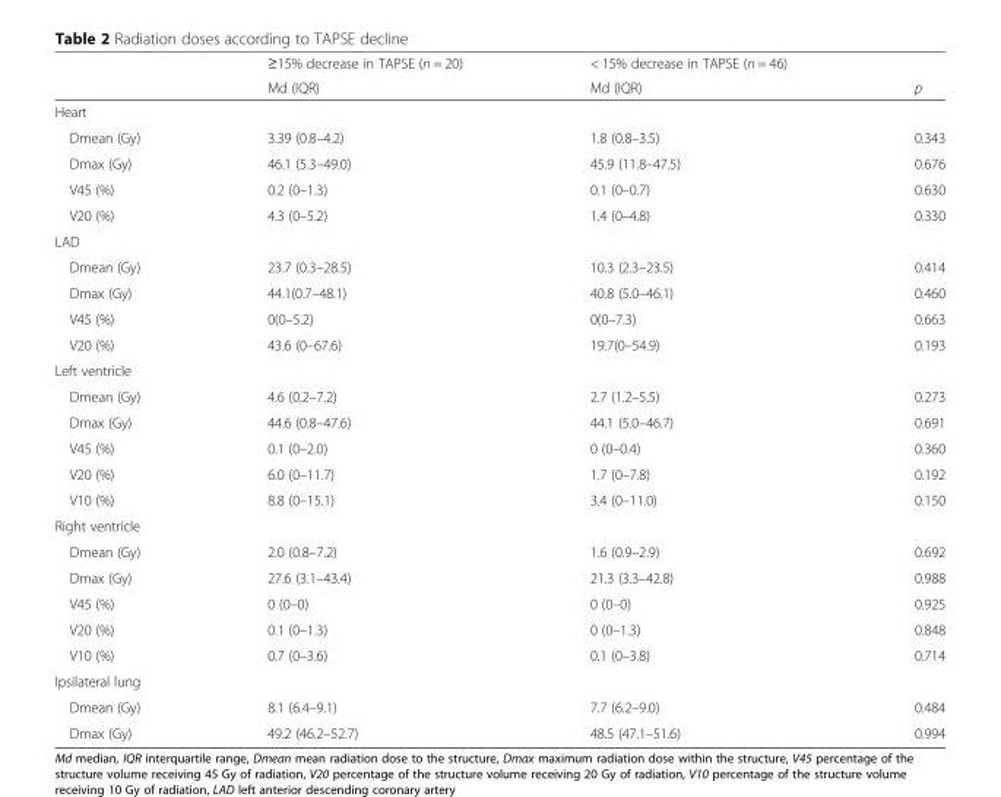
<table><thead><tr><td rowspan="2"></td><td rowspan="2">≥15% decrease in TAPSE (n = 20) Md (IQR)</td><td rowspan="2">&lt; 15% decrease in TAPSE (n = 46) Md (IQR)</td><td rowspan="2">p</td></tr><tr></tr></thead><tbody><tr><td colspan="4">Heart</td></tr><tr><td>Dmean (Gy)</td><td>3.39 (0.8–4.2)</td><td>1.8 (0.8–3.5)</td><td>0.343</td></tr><tr><td>Dmax (Gy)</td><td>46.1 (5.3–49.0)</td><td>45.9 (11.8–47.5)</td><td>0.676</td></tr><tr><td>V45 (%)</td><td>0.2 (0–1.3)</td><td>0.1 (0–0.7)</td><td>0.630</td></tr><tr><td>V20 (%)</td><td>4.3 (0–5.2)</td><td>1.4 (0–4.8)</td><td>0.330</td></tr><tr><td colspan="4">LAD</td></tr><tr><td>Dmean (Gy)</td><td>23.7 (0.3–28.5)</td><td>10.3 (2.3–23.5)</td><td>0.414</td></tr><tr><td>Dmax (Gy)</td><td>44.1(0.7–48.1)</td><td>40.8 (5.0–46.1)</td><td>0.460</td></tr><tr><td>V45 (%)</td><td>0(0–5.2)</td><td>0(0–7.3)</td><td>0.663</td></tr><tr><td>V20 (%)</td><td>43.6 (0–67.6)</td><td>19.7(0–54.9)</td><td>0.193</td></tr><tr><td colspan="4">Left ventricle</td></tr><tr><td>Dmean (Gy)</td><td>4.6 (0.2–7.2)</td><td>2.7 (1.2–5.5)</td><td>0.273</td></tr><tr><td>Dmax (Gy)</td><td>44.6 (0.8–47.6)</td><td>44.1 (5.0–46.7)</td><td>0.691</td></tr><tr><td>V45 (%)</td><td>0.1 (0–2.0)</td><td>0 (0–0.4)</td><td>0.360</td></tr><tr><td>V20 (%)</td><td>6.0 (0–11.7)</td><td>1.7 (0–7.8)</td><td>0.192</td></tr><tr><td>V10 (%)</td><td>8.8 (0–15.1)</td><td>3.4 (0–11.0)</td><td>0.150</td></tr><tr><td colspan="4">Right ventricle</td></tr><tr><td>Dmean (Gy)</td><td>2.0 (0.8–7.2)</td><td>1.6 (0.9–2.9)</td><td>0.692</td></tr><tr><td>Dmax (Gy)</td><td>27.6 (3.1–43.4)</td><td>21.3 (3.3–42.8)</td><td>0.988</td></tr><tr><td>V45 (%)</td><td>0 (0–0)</td><td>0 (0–0)</td><td>0.925</td></tr><tr><td>V20 (%)</td><td>0.1 (0–1.3)</td><td>0 (0–1.3)</td><td>0.848</td></tr><tr><td>V10 (%)</td><td>0.7 (0–3.6)</td><td>0.1 (0–3.8)</td><td>0.714</td></tr><tr><td colspan="4">Ipsilateral lung</td></tr><tr><td>Dmean (Gy)</td><td>8.1 (6.4–9.1)</td><td>7.7 (6.2–9.0)</td><td>0.484</td></tr><tr><td>Dmax (Gy)</td><td>49.2 (46.2–52.7)</td><td>48.5 (47.1–51.6)</td><td>0.994</td></tr></tbody></table>